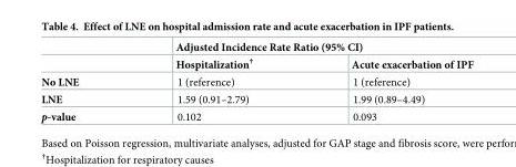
<table><thead><tr><td rowspan="2"></td><td colspan="2">Adjusted Incidence Rate Ratio (95% CI)</td></tr><tr><td>Hospitalization<sup>†</sup></td><td>Acute exacerbation of IPF</td></tr></thead><tbody><tr><td>No LNE</td><td>1 (reference)</td><td>1 (reference)</td></tr><tr><td>LNE</td><td>1.59 (0.91–2.79)</td><td>1.99 (0.89–4.49)</td></tr><tr><td>p-value</td><td>0.102</td><td>0.093</td></tr></tbody></table>